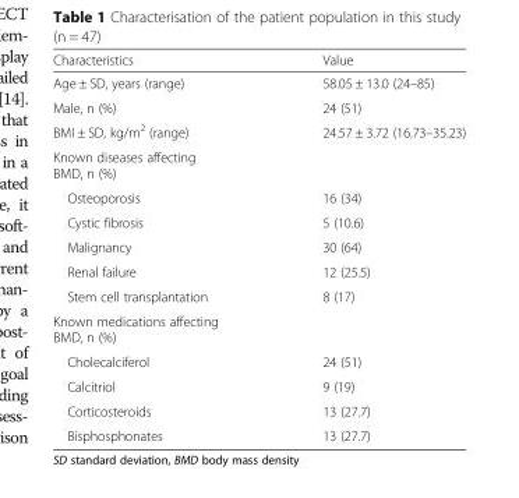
<table><thead><tr><td>Characteristics</td><td>Value</td></tr></thead><tbody><tr><td>Age ± SD, years (range)</td><td>58.05 ± 13.0 (24–85)</td></tr><tr><td>Male, n (%)</td><td>24 (51)</td></tr><tr><td>BMI ± SD, kg/m<sup>2</sup> (range)</td><td>24.57 ± 3.72 (16.73–35.23)</td></tr><tr><td colspan="2">Known diseases affecting BMD, n (%)</td></tr><tr><td>Osteoporosis</td><td>16 (34)</td></tr><tr><td>Cystic fibrosis</td><td>5 (10.6)</td></tr><tr><td>Malignancy</td><td>30 (64)</td></tr><tr><td>Renal failure</td><td>12 (25.5)</td></tr><tr><td>Stem cell transplantation</td><td>8 (17)</td></tr><tr><td colspan="2">Known medications affecting BMD, n (%)</td></tr><tr><td>Cholecalciferol</td><td>24 (51)</td></tr><tr><td>Calcitriol</td><td>9 (19)</td></tr><tr><td>Corticosteroids</td><td>13 (27.7)</td></tr><tr><td>Bisphosphonates</td><td>13 (27.7)</td></tr></tbody></table>